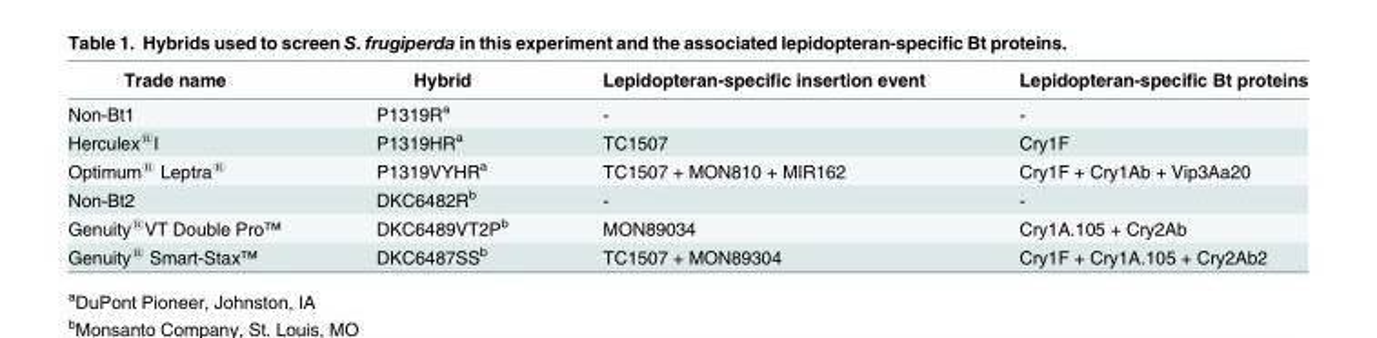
<table><thead><tr><td>Trade name</td><td>Hybrid</td><td>Lepidopteran-specific insertion event</td><td>Lepidopteran-specific Bt proteins</td></tr></thead><tbody><tr><td>Non-Bt1</td><td>P1319R<sup>a</sup></td><td>-</td><td>-</td></tr><tr><td>Herculex<sup>®</sup>I</td><td>P1319HR<sup>a</sup></td><td>TC1507</td><td>Cry1F</td></tr><tr><td>Optimum<sup>®</sup> Leptra<sup>®</sup></td><td>P1319VYHR<sup>a</sup></td><td>TC1507 + MON810 + MIR162</td><td>Cry1F + Cry1Ab + Vip3Aa20</td></tr><tr><td>Non-Bt2</td><td>DKC6482R<sup>b</sup></td><td>-</td><td>-</td></tr><tr><td>Genuity<sup>®</sup>VT Double Pro<sup>™</sup></td><td>DKC6489VT2P<sup>b</sup></td><td>MON89034</td><td>Cry1A.105 + Cry2Ab</td></tr><tr><td>Genuity<sup>®</sup> Smart-Stax<sup>™</sup></td><td>DKC6487SS<sup>b</sup></td><td>TC1507 + MON89304</td><td>Cry1F + Cry1A.105 + Cry2Ab2</td></tr></tbody></table>